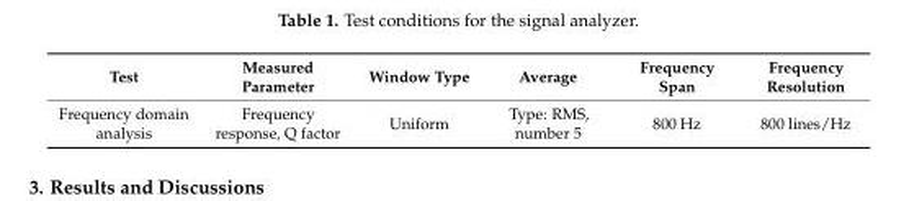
<table><thead><tr><td>Test</td><td>Measured Parameter</td><td>Window Type</td><td>Average</td><td>Frequency Span</td><td>Frequency Resolution</td></tr></thead><tbody><tr><td>Frequency domain analysis</td><td>Frequency response, Q factor</td><td>Uniform</td><td>Type: RMS, number 5</td><td>800 Hz</td><td>800 lines/Hz</td></tr></tbody></table>